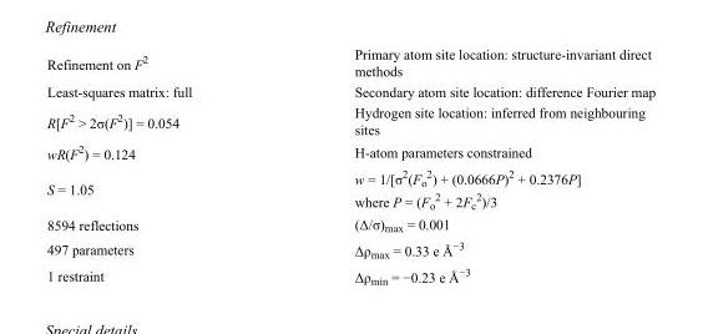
<table><tbody><tr><td>Refinement on F<sup>2</sup></td><td>Primary atom site location: structure-invariant direct methods</td></tr><tr><td>Least-squares matrix: full</td><td>Secondary atom site location: difference Fourier map</td></tr><tr><td>R[F<sup>2</sup> &gt; 2σ(F<sup>2</sup>)] = 0.054</td><td>Hydrogen site location: inferred from neighbouring sites</td></tr><tr><td>wR(F<sup>2</sup>) = 0.124</td><td>H-atom parameters constrained</td></tr><tr><td>S = 1.05</td><td>w = 1/[σ<sup>2</sup>(F<sub>o</sub> <sup>2</sup>) + (0.0666P)<sup>2</sup> + 0.2376P] where P = (F<sub>o</sub> <sup>2</sup> + 2F<sub>c</sub> <sup>2</sup>)/3</td></tr><tr><td>8594 reflections</td><td>(Δ/σ)<sub>max</sub> = 0.001</td></tr><tr><td>497 parameters</td><td>Δρ<sub>max</sub> = 0.33 e Å<sup>−3</sup></td></tr><tr><td>1 restraint</td><td>Δρ<sub>min</sub> = −0.23 e Å<sup>−3</sup></td></tr></tbody></table>